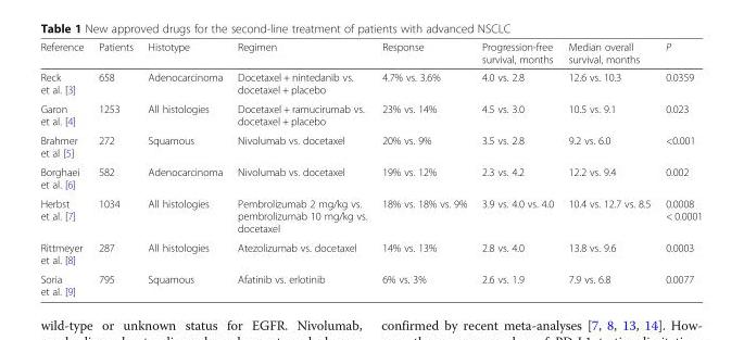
<table><thead><tr><td>Reference</td><td>Patients</td><td>Histotype</td><td>Regimen</td><td>Response</td><td>Progression-free survival, months</td><td>Median overall survival, months</td><td>P</td></tr></thead><tbody><tr><td>Reck et al. [3]</td><td>658</td><td>Adenocarcinoma</td><td>Docetaxel + nintedanib vs. docetaxel + placebo</td><td>4.7% vs. 3.6%</td><td>4.0 vs. 2.8</td><td>12.6 vs. 10.3</td><td>0.0359</td></tr><tr><td>Garon et al. [4]</td><td>1253</td><td>All histologies</td><td>Docetaxel + ramucirumab vs. docetaxel + placebo</td><td>23% vs. 14%</td><td>4.5 vs. 3.0</td><td>10.5 vs. 9.1</td><td>0.023</td></tr><tr><td>Brahmer et al [5]</td><td>272</td><td>Squamous</td><td>Nivolumab vs. docetaxel</td><td>20% vs. 9%</td><td>3.5 vs. 2.8</td><td>9.2 vs. 6.0</td><td>&lt;0.001</td></tr><tr><td>Borghaei et al. [6]</td><td>582</td><td>Adenocarcinoma</td><td>Nivolumab vs. docetaxel</td><td>19% vs. 12%</td><td>2.3 vs. 4.2</td><td>12.2 vs. 9.4</td><td>0.002</td></tr><tr><td>Herbst et al. [7]</td><td>1034</td><td>All histologies</td><td>Pembrolizumab 2 mg/kg vs. pembrolizumab 10 mg/kg vs. docetaxel</td><td>18% vs. 18% vs. 9%</td><td>3.9 vs. 4.0 vs. 4.0</td><td>10.4 vs. 12.7 vs. 8.5</td><td>0.0008 &lt; 0.0001</td></tr><tr><td>Rittmeyer et al. [8]</td><td>287</td><td>All histologies</td><td>Atezolizumab vs. docetaxel</td><td>14% vs. 13%</td><td>2.8 vs. 4.0</td><td>13.8 vs. 9.6</td><td>0.0003</td></tr><tr><td>Soria et al. [9]</td><td>795</td><td>Squamous</td><td>Afatinib vs. erlotinib</td><td>6% vs. 3%</td><td>2.6 vs. 1.9</td><td>7.9 vs. 6.8</td><td>0.0077</td></tr></tbody></table>